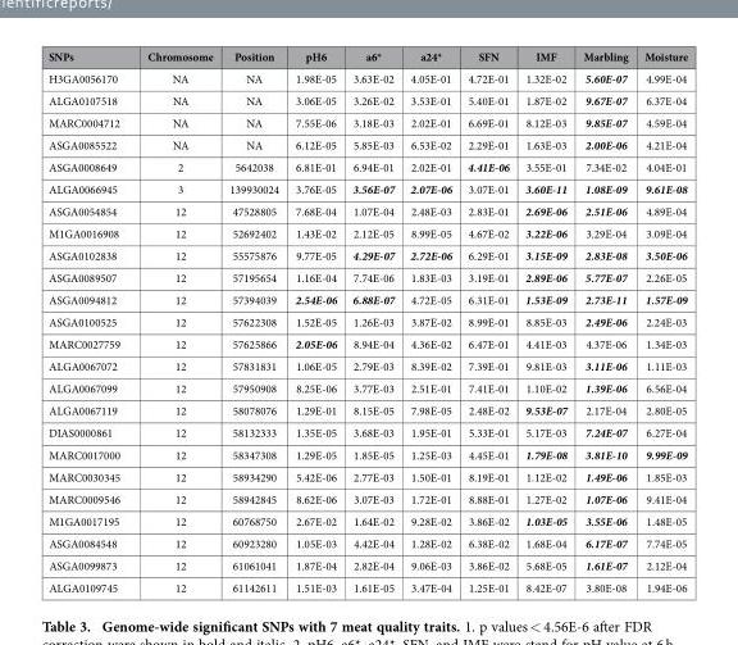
<table><thead><tr><td>SNPs</td><td>Chromosome</td><td>Position</td><td>pH6</td><td>a6*</td><td>a24*</td><td>SFN</td><td>IMF</td><td>Marbling</td><td>Moisture</td></tr></thead><tbody><tr><td>H3GA0056170</td><td>NA</td><td>NA</td><td>1.98E-05</td><td>3.63E-02</td><td>4.05E-01</td><td>4.72E-01</td><td>1.32E-02</td><td>5.60E-07</td><td>4.99E-04</td></tr><tr><td>ALGA0107518</td><td>NA</td><td>NA</td><td>3.06E-05</td><td>3.26E-02</td><td>3.53E-01</td><td>5.40E-01</td><td>1.87E-02</td><td>9.67E-07</td><td>6.37E-04</td></tr><tr><td>MARC0004712</td><td>NA</td><td>NA</td><td>7.55E-06</td><td>3.18E-03</td><td>2.02E-01</td><td>6.69E-01</td><td>8.12E-03</td><td>9.85E-07</td><td>4.59E-04</td></tr><tr><td>ASGA0085522</td><td>NA</td><td>NA</td><td>6.12E-05</td><td>5.85E-03</td><td>6.53E-02</td><td>2.29E-01</td><td>1.63E-03</td><td>2.00E-06</td><td>4.21E-04</td></tr><tr><td>ASGA0008649</td><td>2</td><td>5642038</td><td>6.81E-01</td><td>6.94E-01</td><td>2.02E-01</td><td>4.41E-06</td><td>3.55E-01</td><td>7.34E-02</td><td>4.04E-01</td></tr><tr><td>ALGA0066945</td><td>3</td><td>139930024</td><td>3.76E-05</td><td>3.56E-07</td><td>2.07E-06</td><td>3.07E-01</td><td>3.60E-11</td><td>1.08E-09</td><td>9.61E-08</td></tr><tr><td>ASGA0054854</td><td>12</td><td>47528805</td><td>7.68E-04</td><td>1.07E-04</td><td>2.48E-03</td><td>2.83E-01</td><td>2.69E-06</td><td>2.51E-06</td><td>4.89E-04</td></tr><tr><td>M1GA0016908</td><td>12</td><td>52692402</td><td>1.43E-02</td><td>2.12E-05</td><td>8.99E-05</td><td>4.67E-02</td><td>3.22E-06</td><td>3.29E-04</td><td>3.09E-04</td></tr><tr><td>ASGA0102838</td><td>12</td><td>55575876</td><td>9.77E-05</td><td>4.29E-07</td><td>2.72E-06</td><td>6.29E-01</td><td>3.15E-09</td><td>2.83E-08</td><td>3.50E-06</td></tr><tr><td>ASGA0089507</td><td>12</td><td>57195654</td><td>1.16E-04</td><td>7.74E-06</td><td>1.83E-03</td><td>3.19E-01</td><td>2.89E-06</td><td>5.77E-07</td><td>2.26E-05</td></tr><tr><td>ASGA0094812</td><td>12</td><td>57394039</td><td>2.54E-06</td><td>6.88E-07</td><td>4.72E-05</td><td>6.31E-01</td><td>1.53E-09</td><td>2.73E-11</td><td>1.57E-09</td></tr><tr><td>ASGA0100525</td><td>12</td><td>57622308</td><td>1.52E-05</td><td>1.26E-03</td><td>3.87E-02</td><td>8.99E-01</td><td>8.85E-03</td><td>2.49E-06</td><td>2.24E-03</td></tr><tr><td>MARC0027759</td><td>12</td><td>57625866</td><td>2.05E-06</td><td>8.94E-04</td><td>4.36E-02</td><td>6.47E-01</td><td>4.41E-03</td><td>4.37E-06</td><td>1.34E-03</td></tr><tr><td>ALGA0067072</td><td>12</td><td>57831831</td><td>1.06E-05</td><td>2.79E-03</td><td>8.39E-02</td><td>7.39E-01</td><td>9.81E-03</td><td>3.11E-06</td><td>1.11E-03</td></tr><tr><td>ALGA0067099</td><td>12</td><td>57950908</td><td>8.25E-06</td><td>3.77E-03</td><td>2.51E-01</td><td>7.41E-01</td><td>1.10E-02</td><td>1.39E-06</td><td>6.56E-04</td></tr><tr><td>ALGA0067119</td><td>12</td><td>58078076</td><td>1.29E-01</td><td>8.15E-05</td><td>7.98E-05</td><td>2.48E-02</td><td>9.53E-07</td><td>2.17E-04</td><td>2.80E-05</td></tr><tr><td>DIAS0000861</td><td>12</td><td>58132333</td><td>1.35E-05</td><td>3.68E-03</td><td>1.95E-01</td><td>5.33E-01</td><td>5.17E-03</td><td>7.24E-07</td><td>6.27E-04</td></tr><tr><td>MARC0017000</td><td>12</td><td>58347308</td><td>1.29E-05</td><td>1.85E-05</td><td>1.25E-03</td><td>4.45E-01</td><td>1.79E-08</td><td>3.81E-10</td><td>9.99E-09</td></tr><tr><td>MARC0030345</td><td>12</td><td>58934290</td><td>5.42E-06</td><td>2.77E-03</td><td>1.50E-01</td><td>8.19E-01</td><td>1.12E-02</td><td>1.49E-06</td><td>1.85E-03</td></tr><tr><td>MARC0009546</td><td>12</td><td>58942845</td><td>8.62E-06</td><td>3.07E-03</td><td>1.72E-01</td><td>8.88E-01</td><td>1.27E-02</td><td>1.07E-06</td><td>9.41E-04</td></tr><tr><td>M1GA0017195</td><td>12</td><td>60768750</td><td>2.67E-02</td><td>1.64E-02</td><td>9.28E-02</td><td>3.86E-02</td><td>1.03E-05</td><td>3.55E-06</td><td>1.48E-05</td></tr><tr><td>ASGA0084548</td><td>12</td><td>60923280</td><td>1.05E-03</td><td>4.42E-04</td><td>1.28E-02</td><td>6.38E-02</td><td>1.68E-04</td><td>6.17E-07</td><td>7.74E-05</td></tr><tr><td>ASGA0099873</td><td>12</td><td>61061041</td><td>1.87E-04</td><td>2.82E-04</td><td>9.06E-03</td><td>3.86E-02</td><td>5.68E-05</td><td>1.61E-07</td><td>2.12E-04</td></tr><tr><td>ALGA0109745</td><td>12</td><td>61142611</td><td>1.51E-03</td><td>1.61E-05</td><td>3.47E-04</td><td>1.25E-01</td><td>8.42E-07</td><td>3.80E-08</td><td>1.94E-06</td></tr></tbody></table>